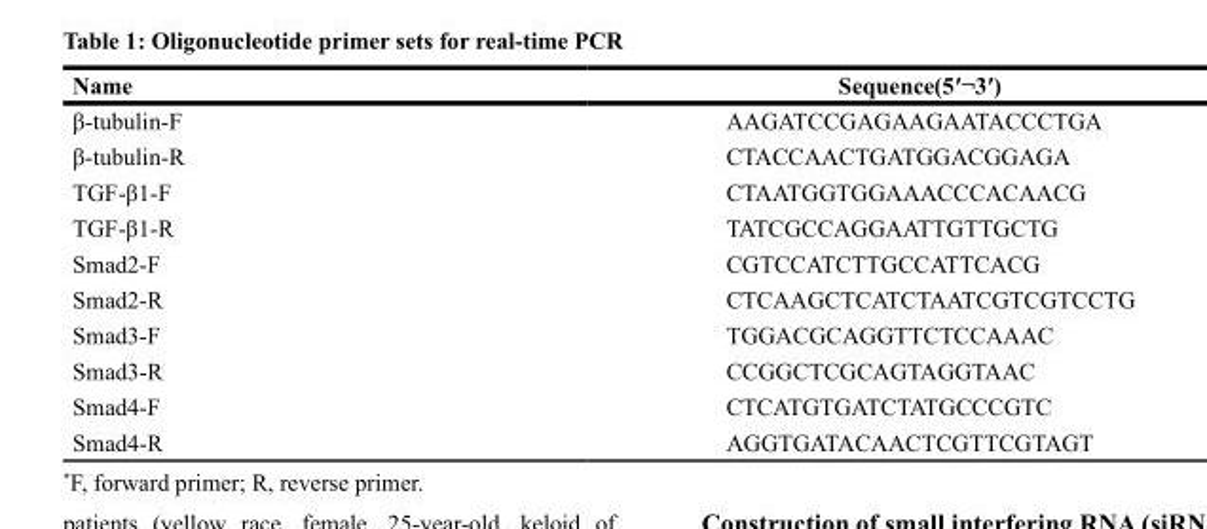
<table><thead><tr><td>Name</td><td>Sequence(5′¬3′)</td></tr></thead><tbody><tr><td>β-tubulin-F</td><td>AAGATCCGAGAAGAATACCCTGA</td></tr><tr><td>β-tubulin-R</td><td>CTACCAACTGATGGACGGAGA</td></tr><tr><td>TGF-β1-F</td><td>CTAATGGTGGAAACCCACAACG</td></tr><tr><td>TGF-β1-R</td><td>TATCGCCAGGAATTGTTGCTG</td></tr><tr><td>Smad2-F</td><td>CGTCCATCTTGCCATTCACG</td></tr><tr><td>Smad2-R</td><td>CTCAAGCTCATCTAATCGTCGTCCTG</td></tr><tr><td>Smad3-F</td><td>TGGACGCAGGTTCTCCAAAC</td></tr><tr><td>Smad3-R</td><td>CCGGCTCGCAGTAGGTAAC</td></tr><tr><td>Smad4-F</td><td>CTCATGTGATCTATGCCCGTC</td></tr><tr><td>Smad4-R</td><td>AGGTGATACAACTCGTTCGTAGT</td></tr></tbody></table>